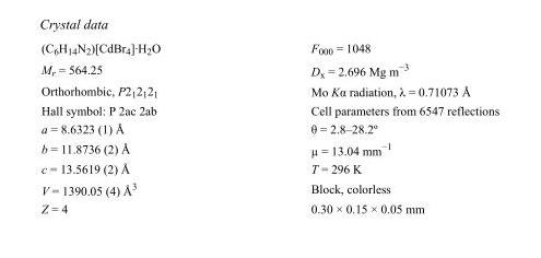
<table><tbody><tr><td>(C<sub>6</sub>H<sub>14</sub>N<sub>2</sub>)[CdBr<sub>4</sub>]·H<sub>2</sub>O</td><td>F000 = 1048</td></tr><tr><td>M<sub>r</sub> = 564.25</td><td>D<sub>x</sub> = 2.696 Mg m<sup>−3</sup></td></tr><tr><td>Orthorhombic, P2<sub>1</sub>2<sub>1</sub>2<sub>1</sub></td><td>Mo Kα radiation, λ = 0.71073 Å</td></tr><tr><td>Hall symbol: P 2ac 2ab</td><td>Cell parameters from 6547 reflections</td></tr><tr><td>a = 8.6323 (1) Å</td><td>θ = 2.8–28.2º</td></tr><tr><td>b = 11.8736 (2) Å</td><td>µ = 13.04 mm<sup>−1</sup></td></tr><tr><td>c = 13.5619 (2) Å</td><td>T = 296 K</td></tr><tr><td>V = 1390.05 (4) Å<sup>3</sup></td><td>Block, colorless</td></tr><tr><td>Z = 4</td><td>0.30 × 0.15 × 0.05 mm</td></tr></tbody></table>